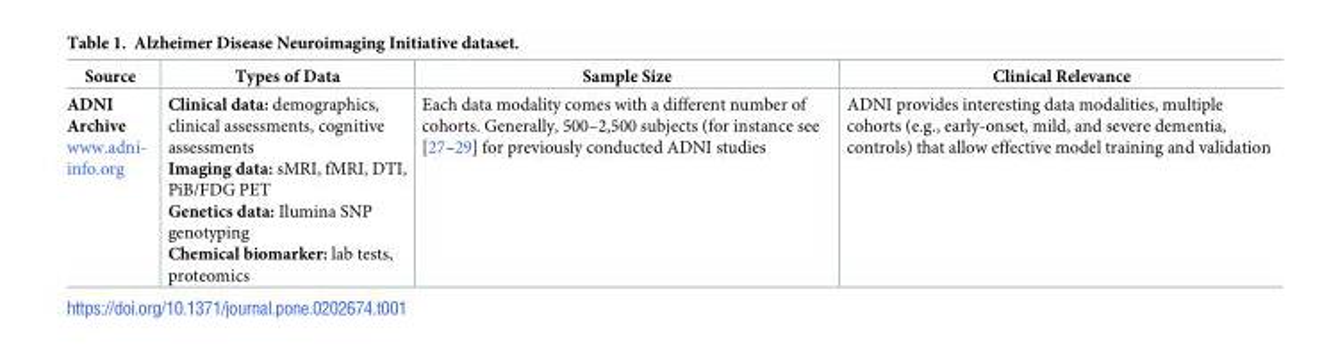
<table><thead><tr><td>Source</td><td>Types of Data</td><td>Sample Size</td><td>Clinical Relevance</td></tr></thead><tbody><tr><td>ADNI Archive www.adni- info.org</td><td>Clinical data: demographics, clinical assessments, cognitive assessments Imaging data: sMRI, fMRI, DTI, PiB/FDG PET Genetics data: Ilumina SNP genotyping Chemical biomarker: lab tests, proteomics</td><td>Each data modality comes with a different number of cohorts. Generally, 500–2,500 subjects (for instance see [27–29] for previously conducted ADNI studies</td><td>ADNI provides interesting data modalities, multiple cohorts (e.g., early-onset, mild, and severe dementia, controls) that allow effective model training and validation</td></tr></tbody></table>